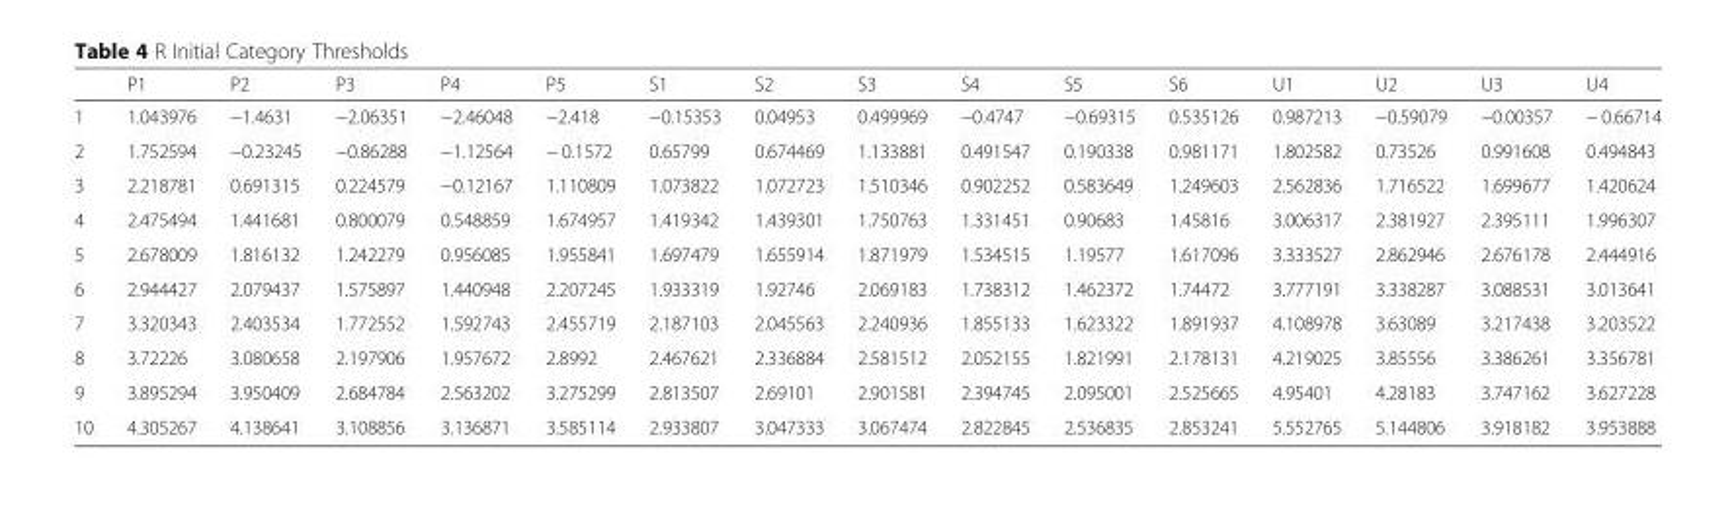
<table><thead><tr><td></td><td>P1</td><td>P2</td><td>P3</td><td>P4</td><td>P5</td><td>S1</td><td>S2</td><td>S3</td><td>S4</td><td>S5</td><td>S6</td><td>U1</td><td>U2</td><td>U3</td><td>U4</td></tr></thead><tbody><tr><td>1</td><td>1.043976</td><td>−1.4631</td><td>−2.06351</td><td>−2.46048</td><td>−2.418</td><td>−0.15353</td><td>0.04953</td><td>0.499969</td><td>−0.4747</td><td>−0.69315</td><td>0.535126</td><td>0.987213</td><td>−0.59079</td><td>−0.00357</td><td>− 0.66714</td></tr><tr><td>2</td><td>1.752594</td><td>−0.23245</td><td>−0.86288</td><td>−1.12564</td><td>− 0.1572</td><td>0.65799</td><td>0.674469</td><td>1.133881</td><td>0.491547</td><td>0.190338</td><td>0.981171</td><td>1.802582</td><td>0.73526</td><td>0.991608</td><td>0.494843</td></tr><tr><td>3</td><td>2.218781</td><td>0.691315</td><td>0.224579</td><td>−0.12167</td><td>1.110809</td><td>1.073822</td><td>1.072723</td><td>1.510346</td><td>0.902252</td><td>0.583649</td><td>1.249603</td><td>2.562836</td><td>1.716522</td><td>1.699677</td><td>1.420624</td></tr><tr><td>4</td><td>2.475494</td><td>1.441681</td><td>0.800079</td><td>0.548859</td><td>1.674957</td><td>1.419342</td><td>1.439301</td><td>1.750763</td><td>1.331451</td><td>0.90683</td><td>1.45816</td><td>3.006317</td><td>2.381927</td><td>2.395111</td><td>1.996307</td></tr><tr><td>5</td><td>2.678009</td><td>1.816132</td><td>1.242279</td><td>0.956085</td><td>1.955841</td><td>1.697479</td><td>1.655914</td><td>1.871979</td><td>1.534515</td><td>1.19577</td><td>1.617096</td><td>3.333527</td><td>2.862946</td><td>2.676178</td><td>2.444916</td></tr><tr><td>6</td><td>2.944427</td><td>2.079437</td><td>1.575897</td><td>1.440948</td><td>2.207245</td><td>1.933319</td><td>1.92746</td><td>2.069183</td><td>1.738312</td><td>1.462372</td><td>1.74472</td><td>3.777191</td><td>3.338287</td><td>3.088531</td><td>3.013641</td></tr><tr><td>7</td><td>3.320343</td><td>2.403534</td><td>1.772552</td><td>1.592743</td><td>2.455719</td><td>2.187103</td><td>2.045563</td><td>2.240936</td><td>1.855133</td><td>1.623322</td><td>1.891937</td><td>4.108978</td><td>3.63089</td><td>3.217438</td><td>3.203522</td></tr><tr><td>8</td><td>3.72226</td><td>3.080658</td><td>2.197906</td><td>1.957672</td><td>2.8992</td><td>2.467621</td><td>2.336884</td><td>2.581512</td><td>2.052155</td><td>1.821991</td><td>2.178131</td><td>4.219025</td><td>3.85556</td><td>3.386261</td><td>3.356781</td></tr><tr><td>9</td><td>3.895294</td><td>3.950409</td><td>2.684784</td><td>2.563202</td><td>3.275299</td><td>2.813507</td><td>2.69101</td><td>2.901581</td><td>2.394745</td><td>2.095001</td><td>2.525665</td><td>4.95401</td><td>4.28183</td><td>3.747162</td><td>3.627228</td></tr><tr><td>10</td><td>4.305267</td><td>4.138641</td><td>3.108856</td><td>3.136871</td><td>3.585114</td><td>2.933807</td><td>3.047333</td><td>3.067474</td><td>2.822845</td><td>2.536835</td><td>2.853241</td><td>5.552765</td><td>5.144806</td><td>3.918182</td><td>3.953888</td></tr></tbody></table>